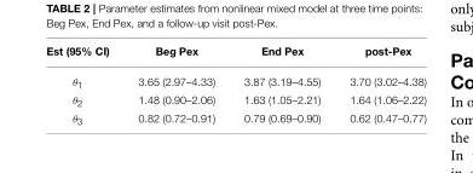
<table><thead><tr><td>Est (95% CI)</td><td>Beg Pex</td><td>End Pex</td><td>post-Pex</td></tr></thead><tbody><tr><td>θ<sub>1</sub></td><td>3.65 (2.97–4.33)</td><td>3.87 (3.19–4.55)</td><td>3.70 (3.02–4.38)</td></tr><tr><td>θ<sub>2</sub></td><td>1.48 (0.90–2.06)</td><td>1.63 (1.05–2.21)</td><td>1.64 (1.06–2.22)</td></tr><tr><td>θ<sub>3</sub></td><td>0.82 (0.72–0.91)</td><td>0.79 (0.69–0.90)</td><td>0.62 (0.47–0.77)</td></tr></tbody></table>